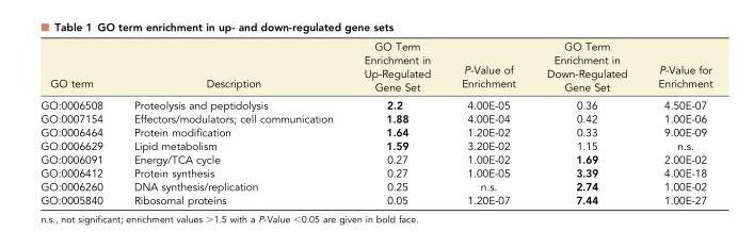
<table><thead><tr><td>GO term</td><td>Description</td><td>GO Term Enrichment in Up-Regulated Gene Set</td><td>P-Value of Enrichment</td><td>GO Term Enrichment in Down-Regulated Gene Set</td><td>P-Value for Enrichment</td></tr></thead><tbody><tr><td>GO:0006508</td><td>Proteolysis and peptidolysis</td><td>2.2</td><td>4.00E-05</td><td>0.36</td><td>4.50E-07</td></tr><tr><td>GO:0007154</td><td>Effectors/modulators; cell communication</td><td>1.88</td><td>4.00E-04</td><td>0.42</td><td>1.00E-06</td></tr><tr><td>GO:0006464</td><td>Protein modification</td><td>1.64</td><td>1.20E-02</td><td>0.33</td><td>9.00E-09</td></tr><tr><td>GO:0006629</td><td>Lipid metabolism</td><td>1.59</td><td>3.20E-02</td><td>1.15</td><td>n.s.</td></tr><tr><td>GO:0006091</td><td>Energy/TCA cycle</td><td>0.27</td><td>1.00E-02</td><td>1.69</td><td>2.00E-02</td></tr><tr><td>GO:0006412</td><td>Protein synthesis</td><td>0.27</td><td>1.00E-05</td><td>3.39</td><td>4.00E-18</td></tr><tr><td>GO:0006260</td><td>DNA synthesis/replication</td><td>0.25</td><td>n.s.</td><td>2.74</td><td>1.00E-02</td></tr><tr><td>GO:0005840</td><td>Ribosomal proteins</td><td>0.05</td><td>1.20E-07</td><td>7.44</td><td>1.00E-27</td></tr></tbody></table>